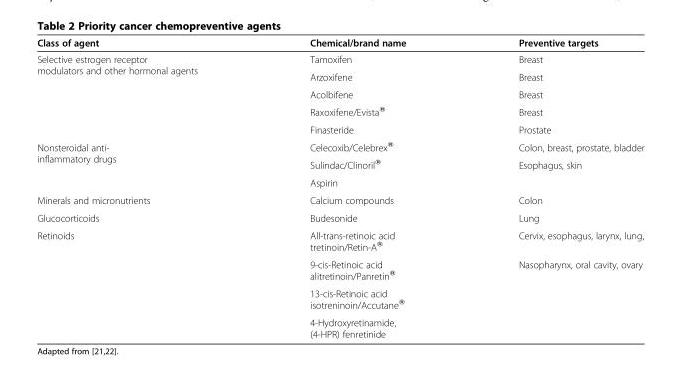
<table><thead><tr><td>Class of agent</td><td>Chemical/brand name</td><td>Preventive targets</td></tr></thead><tbody><tr><td rowspan="5">Selective estrogen receptor modulators and other hormonal agents</td><td>Tamoxifen</td><td>Breast</td></tr><tr><td>Arzoxifene</td><td>Breast</td></tr><tr><td>Acolbifene</td><td>Breast</td></tr><tr><td>Raxoxifene/Evista®</td><td>Breast</td></tr><tr><td>Finasteride</td><td>Prostate</td></tr><tr><td rowspan="3">Nonsteroidal anti- inflammatory drugs</td><td>Celecoxib/Celebrex®</td><td>Colon, breast, prostate, bladder</td></tr><tr><td>Sulindac/Clinoril®</td><td>Esophagus, skin</td></tr><tr><td>Aspirin</td><td></td></tr><tr><td>Minerals and micronutrients</td><td>Calcium compounds</td><td>Colon</td></tr><tr><td>Glucocorticoids</td><td>Budesonide</td><td>Lung</td></tr><tr><td rowspan="4">Retinoids</td><td>All-trans-retinoic acid tretinoin/Retin-A®</td><td>Cervix, esophagus, larynx, lung,</td></tr><tr><td>9-cis-Retinoic acid alitretinoin/Panretin®</td><td>Nasopharynx, oral cavity, ovary</td></tr><tr><td>13-cis-Retinoic acid isotreninoin/Accutane®</td><td></td></tr><tr><td>4-Hydroxyretinamide, (4-HPR) fenretinide</td><td></td></tr></tbody></table>